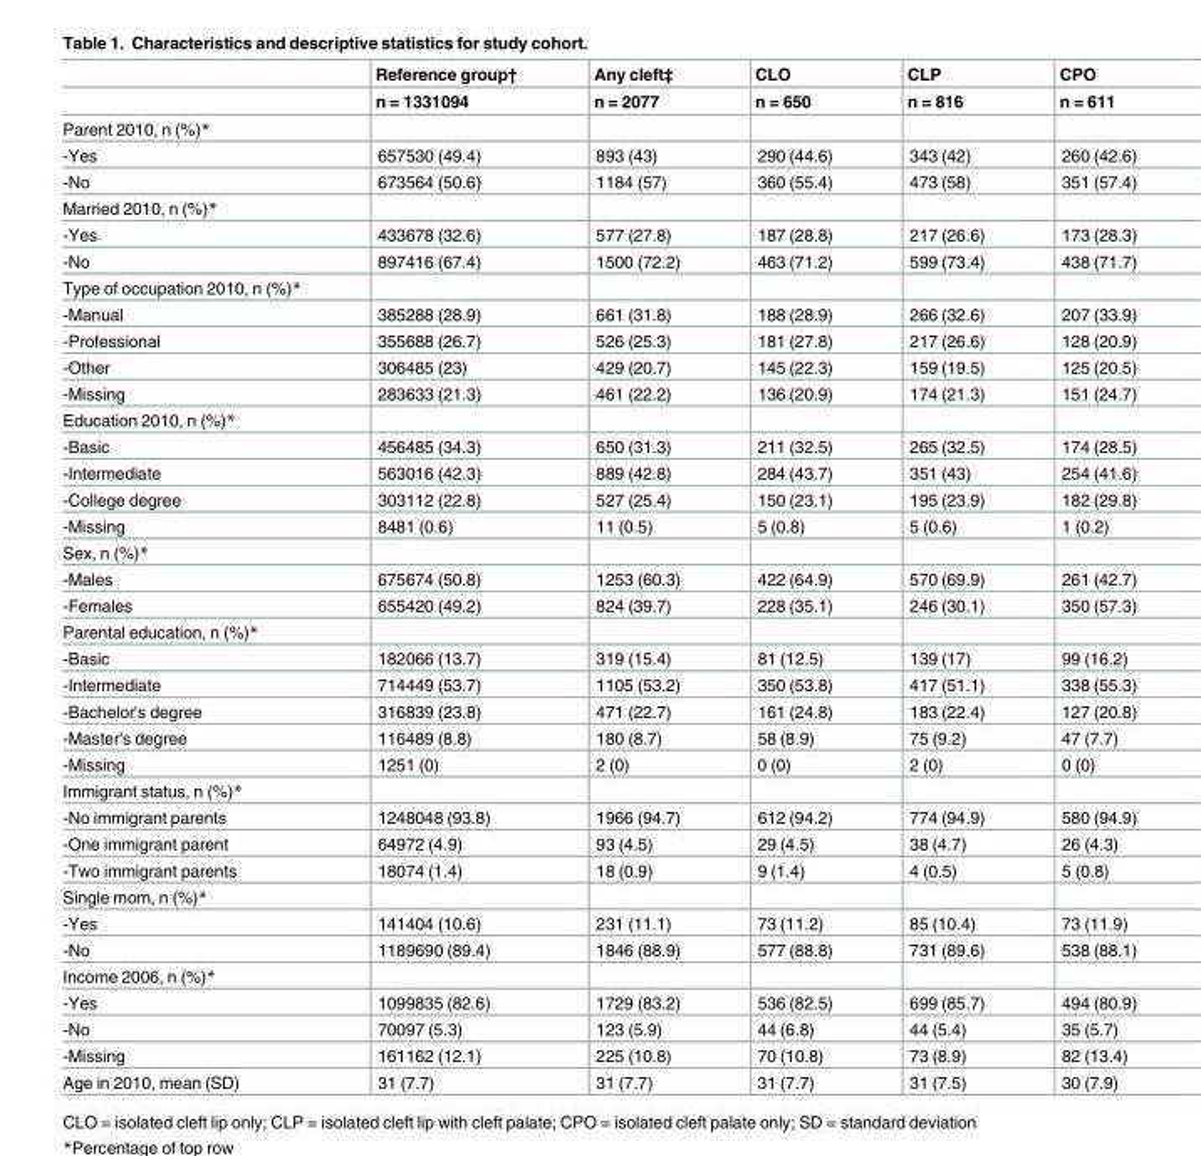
<table><thead><tr><td rowspan="2"></td><td rowspan="2">Reference group† n = 1331094</td><td rowspan="2">Any cleft‡ n = 2077</td><td rowspan="2">CLO n = 650</td><td rowspan="2">CLP n = 816</td><td rowspan="2">CPO n = 611</td></tr><tr></tr></thead><tbody><tr><td colspan="6">Parent 2010, n (%)*</td></tr><tr><td>-Yes</td><td>657530 (49.4)</td><td>893 (43)</td><td>290 (44.6)</td><td>343 (42)</td><td>260 (42.6)</td></tr><tr><td>-No</td><td>673564 (50.6)</td><td>1184 (57)</td><td>360 (55.4)</td><td>473 (58)</td><td>351 (57.4)</td></tr><tr><td colspan="6">Married 2010, n (%)*</td></tr><tr><td>-Yes</td><td>433678 (32.6)</td><td>577 (27.8)</td><td>187 (28.8)</td><td>217 (26.6)</td><td>173 (28.3)</td></tr><tr><td>-No</td><td>897416 (67.4)</td><td>1500 (72.2)</td><td>463 (71.2)</td><td>599 (73.4)</td><td>438 (71.7)</td></tr><tr><td colspan="6">Type of occupation 2010, n (%)*</td></tr><tr><td>-Manual</td><td>385288 (28.9)</td><td>661 (31.8)</td><td>188 (28.9)</td><td>266 (32.6)</td><td>207 (33.9)</td></tr><tr><td>-Professional</td><td>355688 (26.7)</td><td>526 (25.3)</td><td>181 (27.8)</td><td>217 (26.6)</td><td>128 (20.9)</td></tr><tr><td>-Other</td><td>306485 (23)</td><td>429 (20.7)</td><td>145 (22.3)</td><td>159 (19.5)</td><td>125 (20.5)</td></tr><tr><td>-Missing</td><td>283633 (21.3)</td><td>461 (22.2)</td><td>136 (20.9)</td><td>174 (21.3)</td><td>151 (24.7)</td></tr><tr><td colspan="6">Education 2010, n (%)*</td></tr><tr><td>-Basic</td><td>456485 (34.3)</td><td>650 (31.3)</td><td>211 (32.5)</td><td>265 (32.5)</td><td>174 (28.5)</td></tr><tr><td>-Intermediate</td><td>563016 (42.3)</td><td>889 (42.8)</td><td>284 (43.7)</td><td>351 (43)</td><td>254 (41.6)</td></tr><tr><td>-College degree</td><td>303112 (22.8)</td><td>527 (25.4)</td><td>150 (23.1)</td><td>195 (23.9)</td><td>182 (29.8)</td></tr><tr><td>-Missing</td><td>8481 (0.6)</td><td>11 (0.5)</td><td>5 (0.8)</td><td>5 (0.6)</td><td>1 (0.2)</td></tr><tr><td colspan="6">Sex, n (%)*</td></tr><tr><td>-Males</td><td>675674 (50.8)</td><td>1253 (60.3)</td><td>422 (64.9)</td><td>570 (69.9)</td><td>261 (42.7)</td></tr><tr><td>-Females</td><td>655420 (49.2)</td><td>824 (39.7)</td><td>228 (35.1)</td><td>246 (30.1)</td><td>350 (57.3)</td></tr><tr><td colspan="6">Parental education, n (%)*</td></tr><tr><td>-Basic</td><td>182066 (13.7)</td><td>319 (15.4)</td><td>81 (12.5)</td><td>139 (17)</td><td>99 (16.2)</td></tr><tr><td>-Intermediate</td><td>714449 (53.7)</td><td>1105 (53.2)</td><td>350 (53.8)</td><td>417 (51.1)</td><td>338 (55.3)</td></tr><tr><td>-Bachelor&#x27;s degree</td><td>316839 (23.8)</td><td>471 (22.7)</td><td>161 (24.8)</td><td>183 (22.4)</td><td>127 (20.8)</td></tr><tr><td>-Master&#x27;s degree</td><td>116489 (8.8)</td><td>180 (8.7)</td><td>58 (8.9)</td><td>75 (9.2)</td><td>47 (7.7)</td></tr><tr><td>-Missing</td><td>1251 (0)</td><td>2 (0)</td><td>0 (0)</td><td>2 (0)</td><td>0 (0)</td></tr><tr><td colspan="6">Immigrant status, n (%)*</td></tr><tr><td>-No immigrant parents</td><td>1248048 (93.8)</td><td>1966 (94.7)</td><td>612 (94.2)</td><td>774 (94.9)</td><td>580 (94.9)</td></tr><tr><td>-One immigrant parent</td><td>64972 (4.9)</td><td>93 (4.5)</td><td>29 (4.5)</td><td>38 (4.7)</td><td>26 (4.3)</td></tr><tr><td>-Two immigrant parents</td><td>18074 (1.4)</td><td>18 (0.9)</td><td>9 (1.4)</td><td>4 (0.5)</td><td>5 (0.8)</td></tr><tr><td colspan="6">Single mom, n (%)*</td></tr><tr><td>-Yes</td><td>141404 (10.6)</td><td>231 (11.1)</td><td>73 (11.2)</td><td>85 (10.4)</td><td>73 (11.9)</td></tr><tr><td>-No</td><td>1189690 (89.4)</td><td>1846 (88.9)</td><td>577 (88.8)</td><td>731 (89.6)</td><td>538 (88.1)</td></tr><tr><td colspan="6">Income 2006, n (%)*</td></tr><tr><td>-Yes</td><td>1099835 (82.6)</td><td>1729 (83.2)</td><td>536 (82.5)</td><td>699 (85.7)</td><td>494 (80.9)</td></tr><tr><td>-No</td><td>70097 (5.3)</td><td>123 (5.9)</td><td>44 (6.8)</td><td>44 (5.4)</td><td>35 (5.7)</td></tr><tr><td>-Missing</td><td>161162 (12.1)</td><td>225 (10.8)</td><td>70 (10.8)</td><td>73 (8.9)</td><td>82 (13.4)</td></tr><tr><td>Age in 2010, mean (SD)</td><td>31 (7.7)</td><td>31 (7.7)</td><td>31 (7.7)</td><td>31 (7.5)</td><td>30 (7.9)</td></tr></tbody></table>